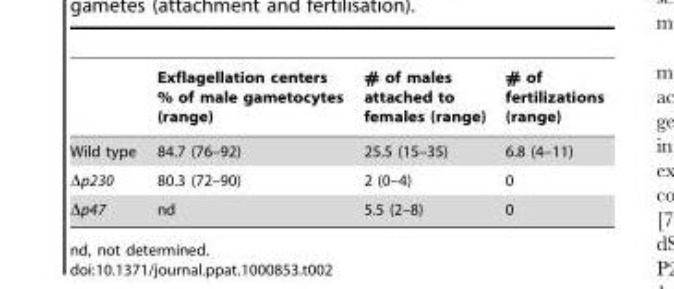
<table><thead><tr><td></td><td>Exflagellation centers % of male gametocytes (range)</td><td># of males attached to females (range)</td><td># of fertilizations (range)</td></tr></thead><tbody><tr><td>Wild type</td><td>84.7 (76–92)</td><td>25.5 (15–35)</td><td>6.8 (4–11)</td></tr><tr><td>Δp230</td><td>80.3 (72–90)</td><td>2 (0–4)</td><td>0</td></tr><tr><td>Δp47</td><td>nd</td><td>5.5 (2–8)</td><td>0</td></tr></tbody></table>